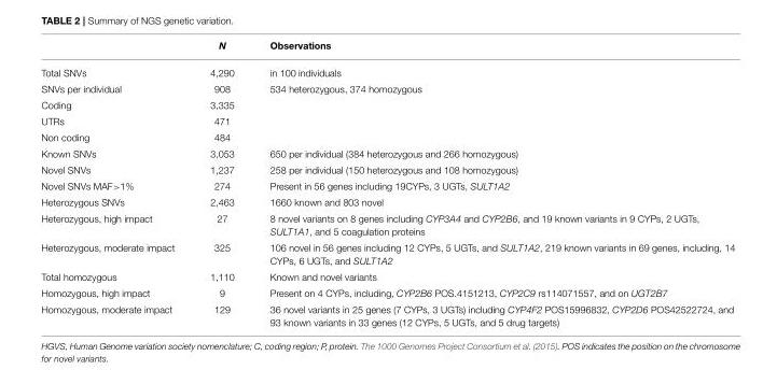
<table><thead><tr><td></td><td>N</td><td>Observations</td></tr></thead><tbody><tr><td>Total SNVs</td><td>4,290</td><td>in 100 individuals</td></tr><tr><td>SNVs per individual</td><td>908</td><td>534 heterozygous, 374 homozygous</td></tr><tr><td>Coding</td><td>3,335</td><td></td></tr><tr><td>UTRs</td><td>471</td><td></td></tr><tr><td>Non coding</td><td>484</td><td></td></tr><tr><td>Known SNVs</td><td>3,053</td><td>650 per individual (384 heterozygous and 266 homozygous)</td></tr><tr><td>Novel SNVs</td><td>1,237</td><td>258 per individual (150 heterozygous and 108 homozygous)</td></tr><tr><td>Novel SNVs MAF&gt;1%</td><td>274</td><td>Present in 56 genes including 19CYPs, 3 UGTs, SULT1A2</td></tr><tr><td>Heterozygous SNVs</td><td>2,463</td><td>1660 known and 803 novel</td></tr><tr><td>Heterozygous, high impact</td><td>27</td><td>8 novel variants on 8 genes including CYP3A4 and CYP2B6, and 19 known variants in 9 CYPs, 2 UGTs, SULT1A1, and 5 coagulation proteins</td></tr><tr><td>Heterozygous, moderate impact</td><td>325</td><td>106 novel in 56 genes including 12 CYPs, 5 UGTs, and SULT1A2, 219 known variants in 69 genes, including, 14 CYPs, 6 UGTs, and SULT1A2</td></tr><tr><td>Total homozygous</td><td>1,110</td><td>Known and novel variants</td></tr><tr><td>Homozygous, high impact</td><td>9</td><td>Present on 4 CYPs, including, CYP2B6 POS.4151213, CYP2C9 rs114071557, and on UGT2B7</td></tr><tr><td>Homozygous, moderate impact</td><td>129</td><td>36 novel variants in 25 genes (7 CYPs, 3 UGTs) including CYP4F2 POS15996832, CYP2D6 POS42522724, and 93 known variants in 33 genes (12 CYPs, 5 UGTs, and 5 drug targets)</td></tr></tbody></table>